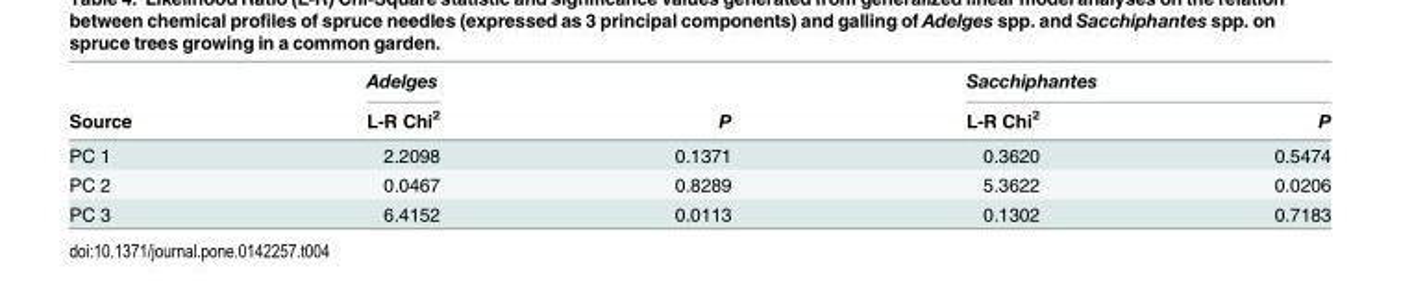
<table><thead><tr><td rowspan="2">Source</td><td rowspan="2">Adelges L-R Chi<sup>2</sup></td><td rowspan="2">P</td><td colspan="2">Sacchiphantes</td></tr><tr><td>L-R Chi<sup>2</sup></td><td>P</td></tr></thead><tbody><tr><td>PC 1</td><td>2.2098</td><td>0.1371</td><td>0.3620</td><td>0.5474</td></tr><tr><td>PC 2</td><td>0.0467</td><td>0.8289</td><td>5.3622</td><td>0.0206</td></tr><tr><td>PC 3</td><td>6.4152</td><td>0.0113</td><td>0.1302</td><td>0.7183</td></tr></tbody></table>